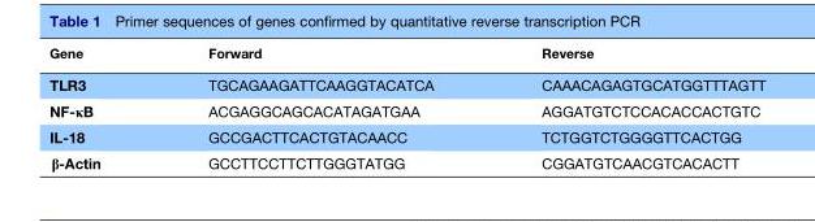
<table><thead><tr><td>Gene</td><td>Forward</td><td>Reverse</td></tr></thead><tbody><tr><td>TLR3</td><td>TGCAGAAGATTCAAGGTACATCA</td><td>CAAACAGAGTGCATGGTTTAGTT</td></tr><tr><td>NF-κB</td><td>ACGAGGCAGCACATAGATGAA</td><td>AGGATGTCTCCACACCACTGTC</td></tr><tr><td>IL-18</td><td>GCCGACTTCACTGTACAACC</td><td>TCTGGTCTGGGGTTCACTGG</td></tr><tr><td>β-Actin</td><td>GCCTTCCTTCTTGGGTATGG</td><td>CGGATGTCAACGTCACACTT</td></tr></tbody></table>